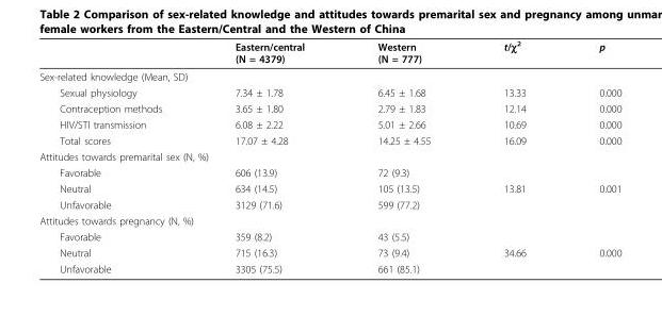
<table><thead><tr><td></td><td>Eastern/central (N = 4379)</td><td>Western (N = 777)</td><td>t/χ<sup>2</sup></td><td>p</td></tr></thead><tbody><tr><td colspan="5">Sex-related knowledge (Mean, SD)</td></tr><tr><td>Sexual physiology</td><td>7.34 ± 1.78</td><td>6.45 ± 1.68</td><td>13.33</td><td>0.000</td></tr><tr><td>Contraception methods</td><td>3.65 ± 1.80</td><td>2.79 ± 1.83</td><td>12.14</td><td>0.000</td></tr><tr><td>HIV/STI transmission</td><td>6.08 ± 2.22</td><td>5.01 ± 2.66</td><td>10.69</td><td>0.000</td></tr><tr><td>Total scores</td><td>17.07 ± 4.28</td><td>14.25 ± 4.55</td><td>16.09</td><td>0.000</td></tr><tr><td colspan="5">Attitudes towards premarital sex (N, %)</td></tr><tr><td>Favorable</td><td>606 (13.9)</td><td>72 (9.3)</td><td></td><td></td></tr><tr><td>Neutral</td><td>634 (14.5)</td><td>105 (13.5)</td><td>13.81</td><td>0.001</td></tr><tr><td>Unfavorable</td><td>3129 (71.6)</td><td>599 (77.2)</td><td></td><td></td></tr><tr><td colspan="5">Attitudes towards pregnancy (N, %)</td></tr><tr><td>Favorable</td><td>359 (8.2)</td><td>43 (5.5)</td><td></td><td></td></tr><tr><td>Neutral</td><td>715 (16.3)</td><td>73 (9.4)</td><td>34.66</td><td>0.000</td></tr><tr><td>Unfavorable</td><td>3305 (75.5)</td><td>661 (85.1)</td><td></td><td></td></tr></tbody></table>